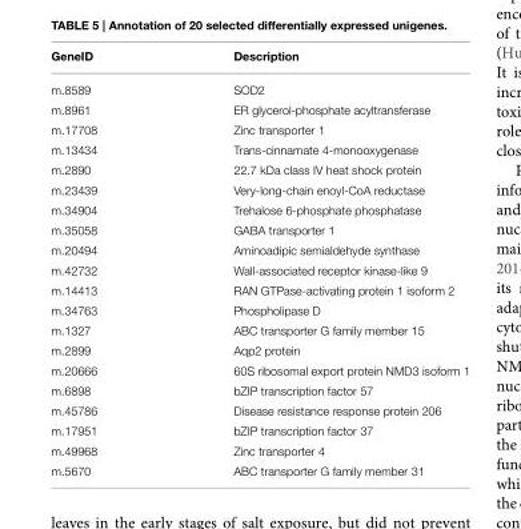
<table><thead><tr><td>GeneID</td><td>Description</td></tr></thead><tbody><tr><td>m.8589</td><td>SOD2</td></tr><tr><td>m.8961</td><td>ER glycerol-phosphate acyltransferase</td></tr><tr><td>m.17708</td><td>Zinc transporter 1</td></tr><tr><td>m.13434</td><td>Trans-cinnamate 4-monooxygenase</td></tr><tr><td>m.2890</td><td>22.7 kDa class IV heat shock protein</td></tr><tr><td>m.23439</td><td>Very-long-chain enoyl-CoA reductase</td></tr><tr><td>m.34904</td><td>Trehalose 6-phosphate phosphatase</td></tr><tr><td>m.35058</td><td>GABA transporter 1</td></tr><tr><td>m.20494</td><td>Aminoadipic semialdehyde synthase</td></tr><tr><td>m.42732</td><td>Wall-associated receptor kinase-like 9</td></tr><tr><td>m.14413</td><td>RAN GTPase-activating protein 1 isoform 2</td></tr><tr><td>m.34763</td><td>Phospholipase D</td></tr><tr><td>m.1327</td><td>ABC transporter G family member 15</td></tr><tr><td>m.2899</td><td>Aqp2 protein</td></tr><tr><td>m.20666</td><td>60S ribosomal export protein NMD3 isoform 1</td></tr><tr><td>m.6898</td><td>bZIP transcription factor 57</td></tr><tr><td>m.45786</td><td>Disease resistance response protein 206</td></tr><tr><td>m.17951</td><td>bZIP transcription factor 37</td></tr><tr><td>m.49968</td><td>Zinc transporter 4</td></tr><tr><td>m.5670</td><td>ABC transporter G family member 31</td></tr></tbody></table>